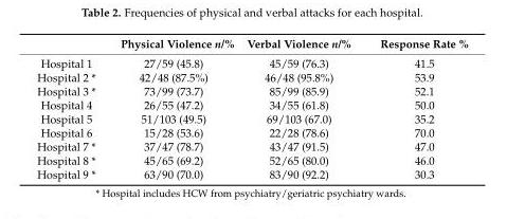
<table><thead><tr><td></td><td>Physical Violence n/%</td><td>Verbal Violence n/%</td><td>Response Rate %</td></tr></thead><tbody><tr><td>Hospital 1</td><td>27/59 (45.8)</td><td>45/59 (76.3)</td><td>41.5</td></tr><tr><td>Hospital 2 *</td><td>42/48 (87.5%)</td><td>46/48 (95.8%)</td><td>53.9</td></tr><tr><td>Hospital 3 *</td><td>73/99 (73.7)</td><td>85/99 (85.9)</td><td>52.1</td></tr><tr><td>Hospital 4</td><td>26/55 (47.2)</td><td>34/55 (61.8)</td><td>50.0</td></tr><tr><td>Hospital 5</td><td>51/103 (49.5)</td><td>69/103 (67.0)</td><td>35.2</td></tr><tr><td>Hospital 6</td><td>15/28 (53.6)</td><td>22/28 (78.6)</td><td>70.0</td></tr><tr><td>Hospital 7 *</td><td>37/47 (78.7)</td><td>43/47 (91.5)</td><td>47.0</td></tr><tr><td>Hospital 8 *</td><td>45/65 (69.2)</td><td>52/65 (80.0)</td><td>46.0</td></tr><tr><td>Hospital 9 *</td><td>63/90 (70.0)</td><td>83/90 (92.2)</td><td>30.3</td></tr></tbody></table>